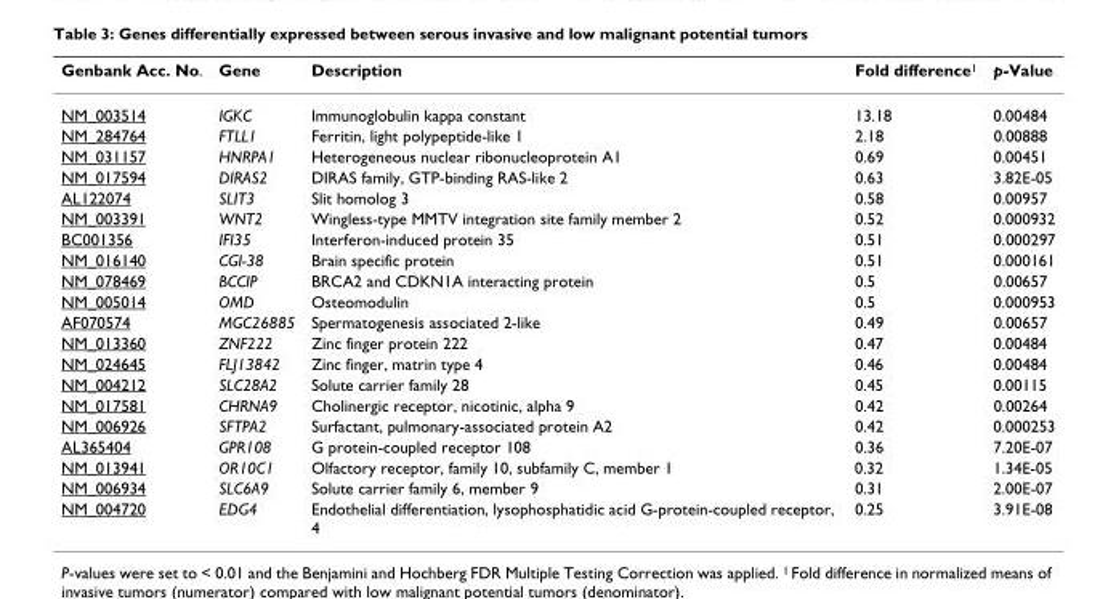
<table><thead><tr><td>Genbank Acc. No.</td><td>Gene</td><td>Description</td><td>Fold difference<sup>1</sup></td><td>p-Value</td></tr></thead><tbody><tr><td>NM_003514</td><td>IGKC</td><td>Immunoglobulin kappa constant</td><td>13.18</td><td>0.00484</td></tr><tr><td>NM_284764</td><td>FTLL1</td><td>Ferritin, light polypeptide-like 1</td><td>2.18</td><td>0.00888</td></tr><tr><td>NM_031157</td><td>HNRPA1</td><td>Heterogeneous nuclear ribonucleoprotein A1</td><td>0.69</td><td>0.00451</td></tr><tr><td>NM_017594</td><td>DIRAS2</td><td>DIRAS family, GTP-binding RAS-like 2</td><td>0.63</td><td>3.82E-05</td></tr><tr><td>AL122074</td><td>SLIT3</td><td>Slit homolog 3</td><td>0.58</td><td>0.00957</td></tr><tr><td>NM_003391</td><td>WNT2</td><td>Wingless-type MMTV integration site family member 2</td><td>0.52</td><td>0.000932</td></tr><tr><td>BC001356</td><td>IFI35</td><td>Interferon-induced protein 35</td><td>0.51</td><td>0.000297</td></tr><tr><td>NM_016140</td><td>CGI-38</td><td>Brain specific protein</td><td>0.51</td><td>0.000161</td></tr><tr><td>NM_078469</td><td>BCCIP</td><td>BRCA2 and CDKN1A interacting protein</td><td>0.5</td><td>0.00657</td></tr><tr><td>NM_005014</td><td>OMD</td><td>Osteomodulin</td><td>0.5</td><td>0.000953</td></tr><tr><td>AF070574</td><td>MGC26885</td><td>Spermatogenesis associated 2-like</td><td>0.49</td><td>0.00657</td></tr><tr><td>NM_013360</td><td>ZNF222</td><td>Zinc finger protein 222</td><td>0.47</td><td>0.00484</td></tr><tr><td>NM_024645</td><td>FLJ13842</td><td>Zinc finger, matrin type 4</td><td>0.46</td><td>0.00484</td></tr><tr><td>NM_004212</td><td>SLC28A2</td><td>Solute carrier family 28</td><td>0.45</td><td>0.00115</td></tr><tr><td>NM_017581</td><td>CHRNA9</td><td>Cholinergic receptor, nicotinic, alpha 9</td><td>0.42</td><td>0.00264</td></tr><tr><td>NM_006926</td><td>SFTPA2</td><td>Surfactant, pulmonary-associated protein A2</td><td>0.42</td><td>0.000253</td></tr><tr><td>AL365404</td><td>GPR108</td><td>G protein-coupled receptor 108</td><td>0.36</td><td>7.20E-07</td></tr><tr><td>NM_013941</td><td>OR10C1</td><td>Olfactory receptor, family 10, subfamily C, member 1</td><td>0.32</td><td>1.34E-05</td></tr><tr><td>NM_006934</td><td>SLC6A9</td><td>Solute carrier family 6, member 9</td><td>0.31</td><td>2.00E-07</td></tr><tr><td>NM_004720</td><td>EDG4</td><td>Endothelial differentiation, lysophosphatidic acid G-protein-coupled receptor, 4</td><td>0.25</td><td>3.91E-08</td></tr></tbody></table>